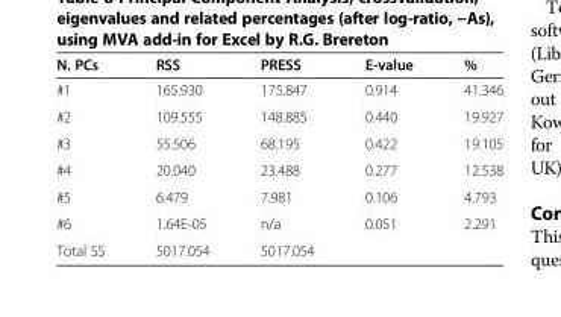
<table><thead><tr><td>N. PCs</td><td>RSS</td><td>PRESS</td><td>E-value</td><td>%</td></tr></thead><tbody><tr><td>#1</td><td>165.930</td><td>175.847</td><td>0.914</td><td>41.346</td></tr><tr><td>#2</td><td>109.555</td><td>148.885</td><td>0.440</td><td>19.927</td></tr><tr><td>#3</td><td>55.506</td><td>68.195</td><td>0.422</td><td>19.105</td></tr><tr><td>#4</td><td>20.040</td><td>23.488</td><td>0.277</td><td>12.538</td></tr><tr><td>#5</td><td>6.479</td><td>7.981</td><td>0.106</td><td>4.793</td></tr><tr><td>#6</td><td>1.64E-05</td><td>n/a</td><td>0.051</td><td>2.291</td></tr><tr><td>Total SS</td><td>5017.054</td><td>5017.054</td><td></td><td></td></tr></tbody></table>